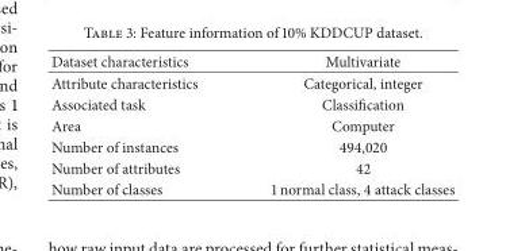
<table><thead><tr><td>Dataset characteristics</td><td>Multivariate</td></tr></thead><tbody><tr><td>Attribute characteristics</td><td>Categorical, integer</td></tr><tr><td>Associated task</td><td>Classification</td></tr><tr><td>Area</td><td>Computer</td></tr><tr><td>Number of instances</td><td>494,020</td></tr><tr><td>Number of attributes</td><td>42</td></tr><tr><td>Number of classes</td><td>1 normal class, 4 attack classes</td></tr></tbody></table>